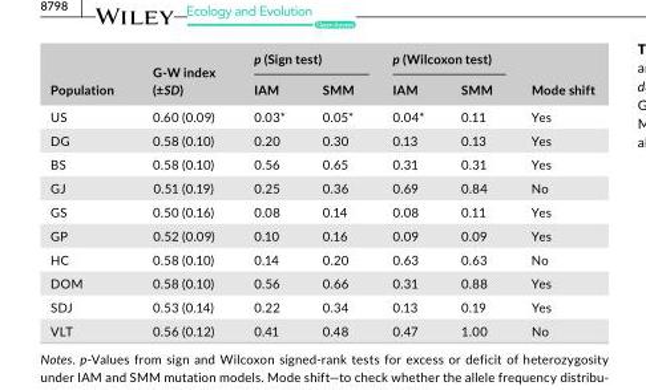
<table><thead><tr><td rowspan="2">Population</td><td rowspan="2">G- W index (±SD)</td><td colspan="2">p (Sign test)</td><td colspan="2">p (Wilcoxon test)</td><td rowspan="2">Mode shift</td></tr><tr><td>IAM</td><td>SMM</td><td>IAM</td><td>SMM</td></tr></thead><tbody><tr><td>US</td><td>0.60 (0.09)</td><td>0.03*</td><td>0.05*</td><td>0.04*</td><td>0.11</td><td>Yes</td></tr><tr><td>DG</td><td>0.58 (0.10)</td><td>0.20</td><td>0.30</td><td>0.13</td><td>0.13</td><td>Yes</td></tr><tr><td>BS</td><td>0.58 (0.10)</td><td>0.56</td><td>0.65</td><td>0.31</td><td>0.31</td><td>Yes</td></tr><tr><td>GJ</td><td>0.51 (0.19)</td><td>0.25</td><td>0.36</td><td>0.69</td><td>0.84</td><td>No</td></tr><tr><td>GS</td><td>0.50 (0.16)</td><td>0.08</td><td>0.14</td><td>0.08</td><td>0.11</td><td>Yes</td></tr><tr><td>GP</td><td>0.52 (0.09)</td><td>0.10</td><td>0.16</td><td>0.09</td><td>0.09</td><td>Yes</td></tr><tr><td>HC</td><td>0.58 (0.10)</td><td>0.14</td><td>0.20</td><td>0.63</td><td>0.63</td><td>No</td></tr><tr><td>DOM</td><td>0.58 (0.10)</td><td>0.56</td><td>0.66</td><td>0.31</td><td>0.88</td><td>Yes</td></tr><tr><td>SDJ</td><td>0.53 (0.14)</td><td>0.22</td><td>0.34</td><td>0.13</td><td>0.19</td><td>Yes</td></tr><tr><td>VLT</td><td>0.56 (0.12)</td><td>0.41</td><td>0.48</td><td>0.47</td><td>1.00</td><td>No</td></tr></tbody></table>